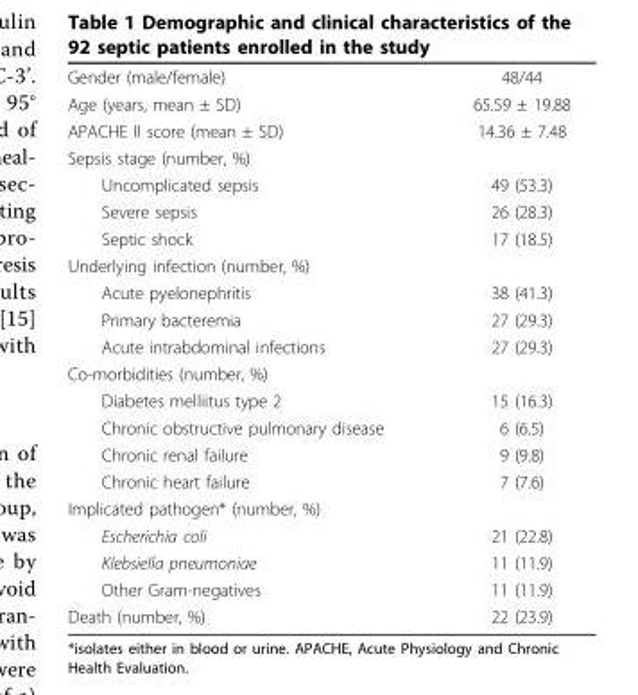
<table><tbody><tr><td>Gender (male/female)</td><td>48/44</td></tr><tr><td>Age (years, mean ± SD)</td><td>65.59 ± 19.88</td></tr><tr><td>APACHE II score (mean ± SD)</td><td>14.36 ± 7.48</td></tr><tr><td colspan="2">Sepsis stage (number, %)</td></tr><tr><td>Uncomplicated sepsis</td><td>49 (53.3)</td></tr><tr><td>Severe sepsis</td><td>26 (28.3)</td></tr><tr><td>Septic shock</td><td>17 (18.5)</td></tr><tr><td colspan="2">Underlying infection (number, %)</td></tr><tr><td>Acute pyelonephritis</td><td>38 (41.3)</td></tr><tr><td>Primary bacteremia</td><td>27 (29.3)</td></tr><tr><td>Acute intrabdominal infections</td><td>27 (29.3)</td></tr><tr><td colspan="2">Co-morbidities (number, %)</td></tr><tr><td>Diabetes melliitus type 2</td><td>15 (16.3)</td></tr><tr><td>Chronic obstructive pulmonary disease</td><td>6 (6.5)</td></tr><tr><td>Chronic renal failure</td><td>9 (9.8)</td></tr><tr><td>Chronic heart failure</td><td>7 (7.6)</td></tr><tr><td colspan="2">Implicated pathogen* (number, %)</td></tr><tr><td>Escherichia coli</td><td>21 (22.8)</td></tr><tr><td>Klebsiella pneumoniae</td><td>11 (11.9)</td></tr><tr><td>Other Gram-negatives</td><td>11 (11.9)</td></tr><tr><td>Death (number, %)</td><td>22 (23.9)</td></tr></tbody></table>